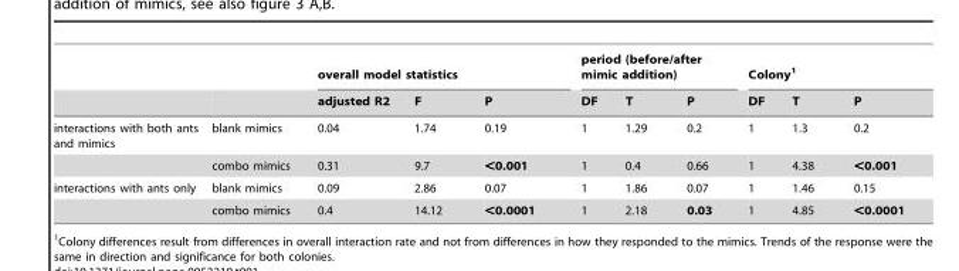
<table><thead><tr><td rowspan="2"></td><td rowspan="2"></td><td colspan="3">overall model statistics</td><td colspan="3">period (before/after mimic addition)</td><td colspan="3">Colony<sup>1</sup></td></tr><tr><td>adjusted R2</td><td>F</td><td>P</td><td>DF</td><td>T</td><td>P</td><td>DF</td><td>T</td><td>P</td></tr></thead><tbody><tr><td rowspan="2">interactions with both ants and mimics</td><td>blank mimics</td><td>0.04</td><td>1.74</td><td>0.19</td><td>1</td><td>1.29</td><td>0.2</td><td>1</td><td>1.3</td><td>0.2</td></tr><tr><td>combo mimics</td><td>0.31</td><td>9.7</td><td>&lt;0.001</td><td>1</td><td>0.4</td><td>0.66</td><td>1</td><td>4.38</td><td>&lt;0.001</td></tr><tr><td rowspan="2">interactions with ants only</td><td>blank mimics</td><td>0.09</td><td>2.86</td><td>0.07</td><td>1</td><td>1.86</td><td>0.07</td><td>1</td><td>1.46</td><td>0.15</td></tr><tr><td>combo mimics</td><td>0.4</td><td>14.12</td><td>&lt;0.0001</td><td>1</td><td>2.18</td><td>0.03</td><td>1</td><td>4.85</td><td>&lt;0.0001</td></tr></tbody></table>